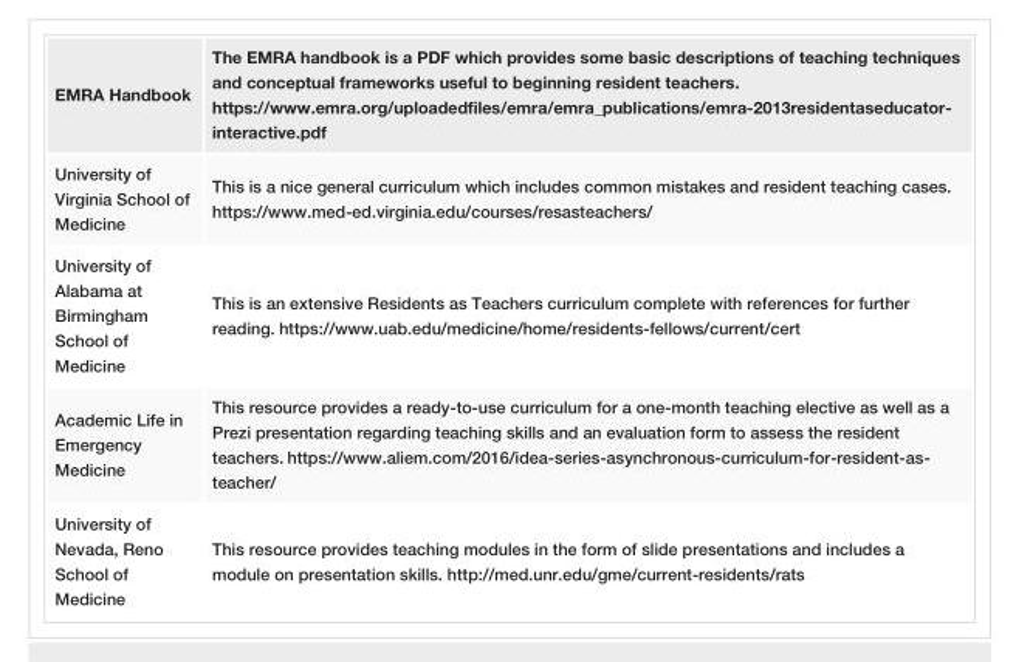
<table><tbody><tr><td>EMRA Handbook</td><td>The EMRA handbook is a PDF which provides some basic descriptions of teaching techniques and conceptual frameworks useful to beginning resident teachers. https://www.emra.org/uploadedfiles/emra/emra_publications/emra-2013residentaseducator- interactive.pdf</td></tr><tr><td>University of Virginia School of Medicine</td><td>This is a nice general curriculum which includes common mistakes and resident teaching cases. https://www.med-ed.virginia.edu/courses/resasteachers/</td></tr><tr><td>University of Alabama at Birmingham School of Medicine</td><td>This is an extensive Residents as Teachers curriculum complete with references for further reading. https://www.uab.edu/medicine/home/residents-fellows/current/cert</td></tr><tr><td>Academic Life in Emergency Medicine</td><td>This resource provides a ready-to-use curriculum for a one-month teaching elective as well as a Prezi presentation regarding teaching skills and an evaluation form to assess the resident teachers. https://www.aliem.com/2016/idea-series-asynchronous-curriculum-for-resident-as- teacher/</td></tr><tr><td>University of Nevada, Reno School of Medicine</td><td>This resource provides teaching modules in the form of slide presentations and includes a module on presentation skills. http://med.unr.edu/gme/current-residents/rats</td></tr></tbody></table>